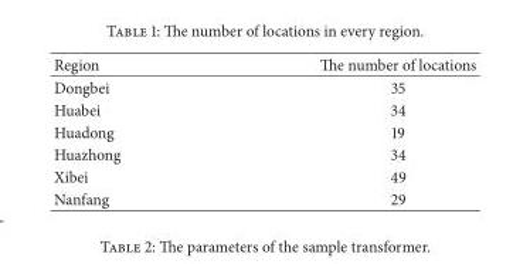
<table><thead><tr><td>Region</td><td>The number of locations</td></tr></thead><tbody><tr><td>Dongbei</td><td>35</td></tr><tr><td>Huabei</td><td>34</td></tr><tr><td>Huadong</td><td>19</td></tr><tr><td>Huazhong</td><td>34</td></tr><tr><td>Xibei</td><td>49</td></tr><tr><td>Nanfang</td><td>29</td></tr></tbody></table>